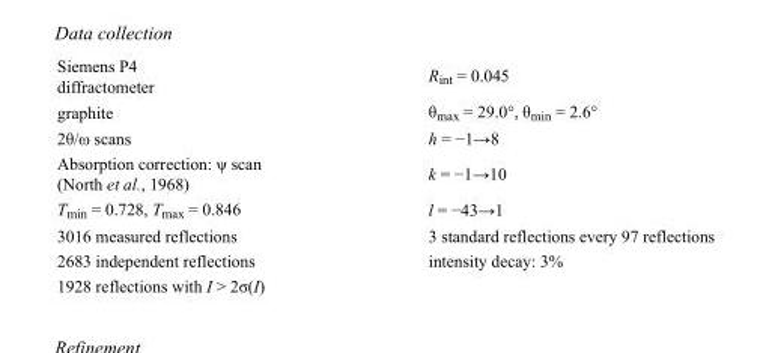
<table><tbody><tr><td>Siemens P4 diffractometer</td><td>R<sub>int</sub> = 0.045</td></tr><tr><td>graphite</td><td>θ<sub>max</sub> = 29.0°, θ<sub>min</sub> = 2.6°</td></tr><tr><td>2θ/ω scans</td><td>h = −1→8</td></tr><tr><td>Absorption correction: ψ scan (North et al., 1968)</td><td>k = −1→10</td></tr><tr><td>T<sub>min</sub> = 0.728, T<sub>max</sub> = 0.846</td><td>l = −43→1</td></tr><tr><td>3016 measured reflections</td><td>3 standard reflections every 97 reflections</td></tr><tr><td>2683 independent reflections</td><td>intensity decay: 3%</td></tr><tr><td>1928 reflections with I &gt; 2σ(I)</td><td></td></tr></tbody></table>